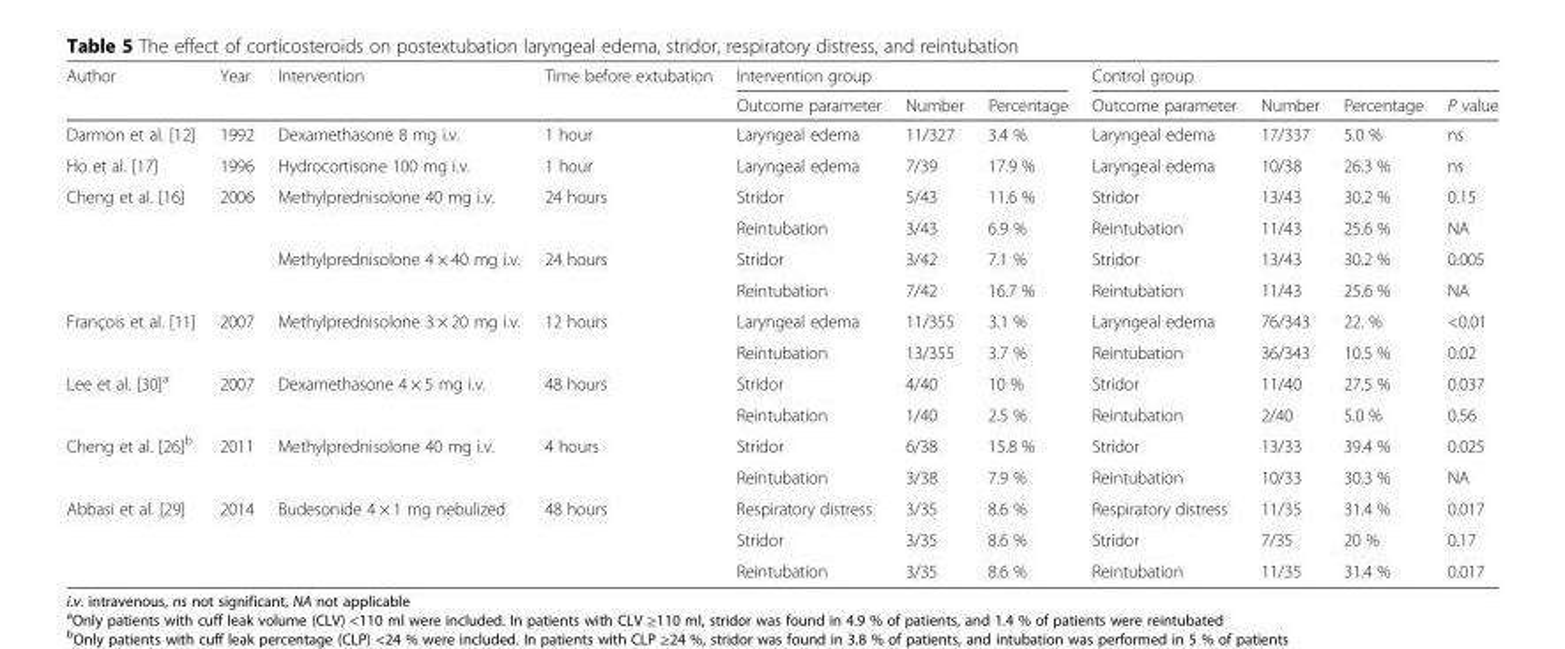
<table><thead><tr><td rowspan="2">Author</td><td rowspan="2">Year</td><td rowspan="2">Intervention</td><td rowspan="2">Time before extubation</td><td colspan="3">Intervention group</td><td colspan="4">Control group</td></tr><tr><td>Outcome parameter</td><td>Number</td><td>Percentage</td><td>Outcome parameter</td><td>Number</td><td>Percentage</td><td>P value</td></tr></thead><tbody><tr><td>Darmon et al. [12]</td><td>1992</td><td>Dexamethasone 8 mg i.v.</td><td>1 hour</td><td>Laryngeal edema</td><td>11/327</td><td>3.4 %</td><td>Laryngeal edema</td><td>17/337</td><td>5.0 %</td><td>ns</td></tr><tr><td>Ho et al. [17]</td><td>1996</td><td>Hydrocortisone 100 mg i.v.</td><td>1 hour</td><td>Laryngeal edema</td><td>7/39</td><td>17.9 %</td><td>Laryngeal edema</td><td>10/38</td><td>26.3 %</td><td>ns</td></tr><tr><td rowspan="4">Cheng et al. [16]</td><td rowspan="2">2006</td><td rowspan="2">Methylprednisolone 40 mg i.v.</td><td rowspan="2">24 hours</td><td>Stridor</td><td>5/43</td><td>11.6 %</td><td>Stridor</td><td>13/43</td><td>30.2 %</td><td>0.15</td></tr><tr><td>Reintubation</td><td>3/43</td><td>6.9 %</td><td>Reintubation</td><td>11/43</td><td>25.6 %</td><td>NA</td></tr><tr><td rowspan="2"></td><td rowspan="2">Methylprednisolone 4 × 40 mg i.v.</td><td rowspan="2">24 hours</td><td>Stridor</td><td>3/42</td><td>7.1 %</td><td>Stridor</td><td>13/43</td><td>30.2 %</td><td>0.005</td></tr><tr><td>Reintubation</td><td>7/42</td><td>16.7 %</td><td>Reintubation</td><td>11/43</td><td>25.6 %</td><td>NA</td></tr><tr><td rowspan="2">François et al. [11]</td><td rowspan="2">2007</td><td rowspan="2">Methylprednisolone 3 × 20 mg i.v.</td><td rowspan="2">12 hours</td><td>Laryngeal edema</td><td>11/355</td><td>3.1 %</td><td>Laryngeal edema</td><td>76/343</td><td>22. %</td><td>&lt;0.01</td></tr><tr><td>Reintubation</td><td>13/355</td><td>3.7 %</td><td>Reintubation</td><td>36/343</td><td>10.5 %</td><td>0.02</td></tr><tr><td rowspan="2">Lee et al. [30]<sup>a</sup></td><td rowspan="2">2007</td><td rowspan="2">Dexamethasone 4 × 5 mg i.v.</td><td rowspan="2">48 hours</td><td>Stridor</td><td>4/40</td><td>10 %</td><td>Stridor</td><td>11/40</td><td>27.5 %</td><td>0.037</td></tr><tr><td>Reintubation</td><td>1/40</td><td>2.5 %</td><td>Reintubation</td><td>2/40</td><td>5.0 %</td><td>0.56</td></tr><tr><td rowspan="2">Cheng et al. [26]<sup>b</sup></td><td rowspan="2">2011</td><td rowspan="2">Methylprednisolone 40 mg i.v.</td><td rowspan="2">4 hours</td><td>Stridor</td><td>6/38</td><td>15.8 %</td><td>Stridor</td><td>13/33</td><td>39.4 %</td><td>0.025</td></tr><tr><td>Reintubation</td><td>3/38</td><td>7.9 %</td><td>Reintubation</td><td>10/33</td><td>30.3 %</td><td>NA</td></tr><tr><td rowspan="3">Abbasi et al. [29]</td><td rowspan="3">2014</td><td rowspan="3">Budesonide 4 × 1 mg nebulized</td><td rowspan="3">48 hours</td><td>Respiratory distress</td><td>3/35</td><td>8.6 %</td><td>Respiratory distress</td><td>11/35</td><td>31.4 %</td><td>0.017</td></tr><tr><td>Stridor</td><td>3/35</td><td>8.6 %</td><td>Stridor</td><td>7/35</td><td>20 %</td><td>0.17</td></tr><tr><td>Reintubation</td><td>3/35</td><td>8.6 %</td><td>Reintubation</td><td>11/35</td><td>31.4 %</td><td>0.017</td></tr></tbody></table>